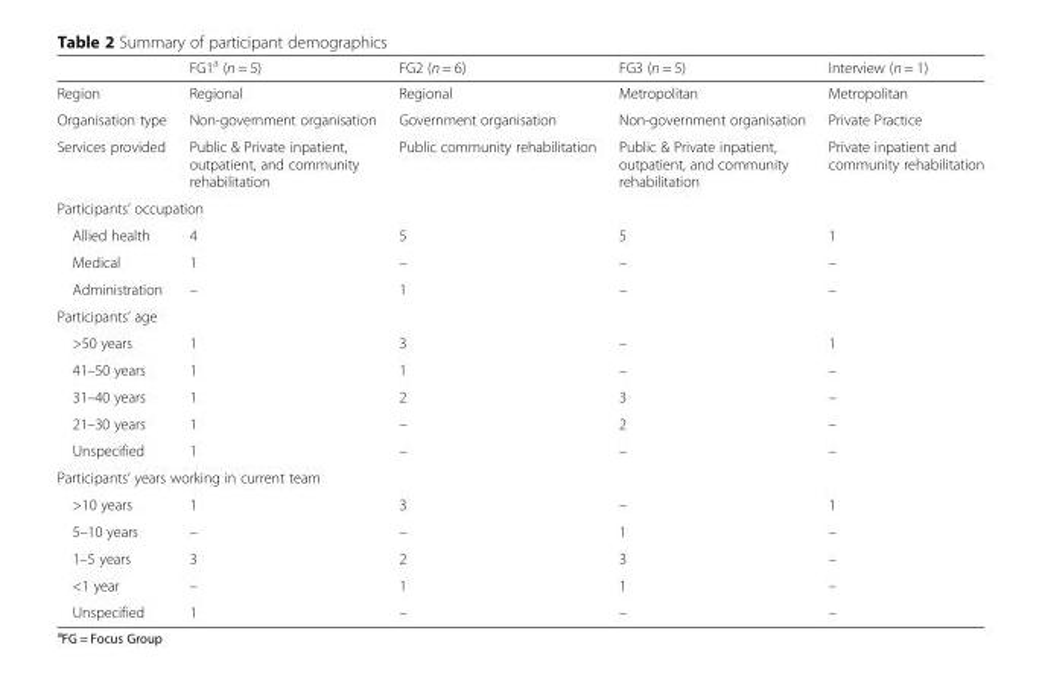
<table><thead><tr><td></td><td>FG1<sup>a</sup> (n = 5)</td><td>FG2 (n = 6)</td><td>FG3 (n = 5)</td><td>Interview (n = 1)</td></tr></thead><tbody><tr><td>Region</td><td>Regional</td><td>Regional</td><td>Metropolitan</td><td>Metropolitan</td></tr><tr><td>Organisation type</td><td>Non-government organisation</td><td>Government organisation</td><td>Non-government organisation</td><td>Private Practice</td></tr><tr><td>Services provided</td><td>Public &amp; Private inpatient, outpatient, and community rehabilitation</td><td>Public community rehabilitation</td><td>Public &amp; Private inpatient, outpatient, and community rehabilitation</td><td>Private inpatient and community rehabilitation</td></tr><tr><td colspan="5">Participants’ occupation</td></tr><tr><td>Allied health</td><td>4</td><td>5</td><td>5</td><td>1</td></tr><tr><td>Medical</td><td>1</td><td>–</td><td>–</td><td>–</td></tr><tr><td>Administration</td><td>–</td><td>1</td><td>–</td><td>–</td></tr><tr><td colspan="5">Participants’ age</td></tr><tr><td>&gt;50 years</td><td>1</td><td>3</td><td>–</td><td>1</td></tr><tr><td>41–50 years</td><td>1</td><td>1</td><td>–</td><td>–</td></tr><tr><td>31–40 years</td><td>1</td><td>2</td><td>3</td><td>–</td></tr><tr><td>21–30 years</td><td>1</td><td>–</td><td>2</td><td>–</td></tr><tr><td>Unspecified</td><td>1</td><td>–</td><td>–</td><td>–</td></tr><tr><td colspan="5">Participants’ years working in current team</td></tr><tr><td>&gt;10 years</td><td>1</td><td>3</td><td>–</td><td>1</td></tr><tr><td>5–10 years</td><td>–</td><td>–</td><td>1</td><td>–</td></tr><tr><td>1–5 years</td><td>3</td><td>2</td><td>3</td><td>–</td></tr><tr><td>&lt;1 year</td><td>–</td><td>1</td><td>1</td><td>–</td></tr><tr><td>Unspecified</td><td>1</td><td>–</td><td>–</td><td>–</td></tr></tbody></table>